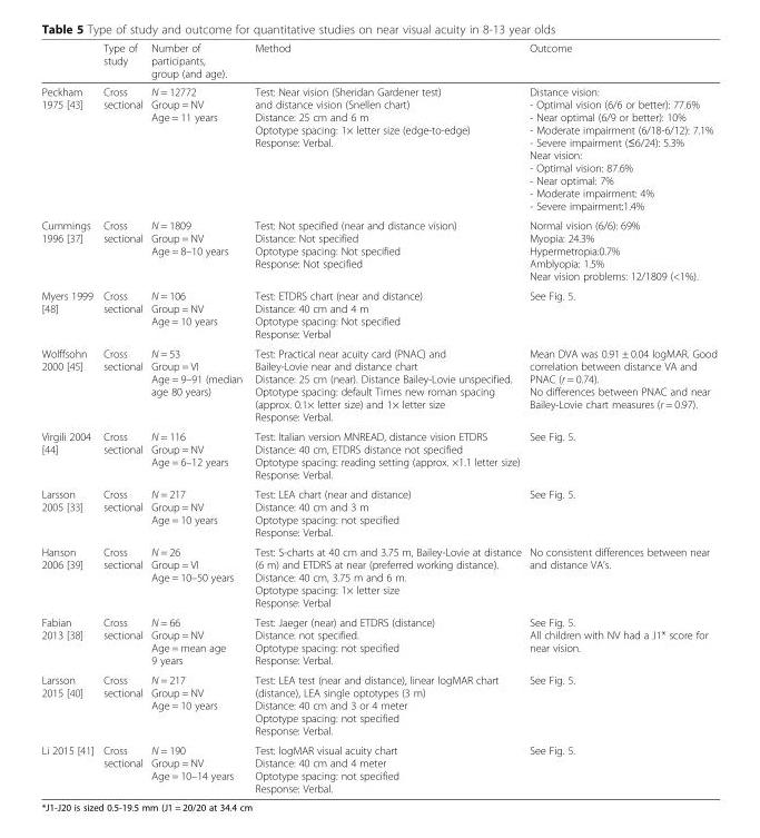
<table><thead><tr><td></td><td>Type of study</td><td>Number of participants, group (and age).</td><td>Method</td><td>Outcome</td></tr></thead><tbody><tr><td>Peckham 1975 [43]</td><td>Cross sectional</td><td>N = 12772 Group = NV Age = 11 years</td><td>Test: Near vision (Sheridan Gardener test) and distance vision (Snellen chart) Distance: 25 cm and 6 m Optotype spacing: 1× letter size (edge-to-edge) Response: Verbal.</td><td>Distance vision: - Optimal vision (6/6 or better): 77.6% - Near optimal (6/9 or better): 10% - Moderate impairment (6/18-6/12): 7.1% - Severe impairment (≤6/24): 5.3% Near vision: - Optimal vision: 87.6% - Near optimal: 7% - Moderate impairment: 4% - Severe impairment:1.4%</td></tr><tr><td>Cummings 1996 [37]</td><td>Cross sectional</td><td>N = 1809 Group = NV Age = 8–10 years</td><td>Test: Not specified (near and distance vision) Distance: Not specified Optotype spacing: Not specified Response: Not specified</td><td>Normal vision (6/6): 69% Myopia: 24.3% Hypermetropia:0.7% Amblyopia: 1.5% Near vision problems: 12/1809 (&lt;1%).</td></tr><tr><td>Myers 1999 [48]</td><td>Cross sectional</td><td>N = 106 Group = NV Age = 10 years</td><td>Test: ETDRS chart (near and distance) Distance: 40 cm and 4 m Optotype spacing: Not specified Response: Verbal</td><td>See Fig. 5.</td></tr><tr><td>Wolffsohn 2000 [45]</td><td>Cross sectional</td><td>N = 53 Group = VI Age = 9–91 (median age 80 years)</td><td>Test: Practical near acuity card (PNAC) and Bailey-Lovie near and distance chart Distance: 25 cm (near). Distance Bailey-Lovie unspecified. Optotype spacing: default Times new roman spacing (approx. 0.1× letter size) and 1× letter size Response: Verbal.</td><td>Mean DVA was 0.91 ± 0.04 logMAR. Good correlation between distance VA and PNAC (r = 0.74). No differences between PNAC and near Bailey-Lovie chart measures (r = 0.97).</td></tr><tr><td>Virgili 2004 [44]</td><td>Cross sectional</td><td>N = 116 Group = NV Age = 6–12 years</td><td>Test: Italian version MNREAD, distance vision ETDRS Distance: 40 cm, ETDRS distance not specified Optotype spacing: reading setting (approx. ×1.1 letter size) Response: Verbal.</td><td>See Fig. 5.</td></tr><tr><td>Larsson 2005 [33]</td><td>Cross sectional</td><td>N = 217 Group = NV Age = 10 years</td><td>Test: LEA chart (near and distance) Distance: 40 cm and 3 m Optotype spacing: not specified Response: Verbal.</td><td>See Fig. 5.</td></tr><tr><td>Hanson 2006 [39]</td><td>Cross sectional</td><td>N = 26 Group = VI Age = 10–50 years</td><td>Test: S-charts at 40 cm and 3.75 m, Bailey-Lovie at distance (6 m) and ETDRS at near (preferred working distance). Distance: 40 cm, 3.75 m and 6 m. Optotype spacing: 1× letter size Response: Verbal</td><td>No consistent differences between near and distance VA’s.</td></tr><tr><td>Fabian 2013 [38]</td><td>Cross sectional</td><td>N = 66 Group = NV Age = mean age 9 years</td><td>Test: Jaeger (near) and ETDRS (distance) Distance: not specified. Optotype spacing: not specified Response: Verbal.</td><td>See Fig. 5. All children with NV had a J1* score for near vision.</td></tr><tr><td>Larsson 2015 [40]</td><td>Cross sectional</td><td>N = 217 Group = NV Age = 10 years</td><td>Test: LEA test (near and distance), linear logMAR chart (distance), LEA single optotypes (3 m) Distance: 40 cm and 3 or 4 meter Optotype spacing: not specified Response: Verbal.</td><td>See Fig. 5.</td></tr><tr><td>Li 2015 [41]</td><td>Cross sectional</td><td>N = 190 Group = NV Age = 10–14 years</td><td>Test: logMAR visual acuity chart Distance: 40 cm and 4 meter Optotype spacing: not specified Response: Verbal.</td><td>See Fig. 5.</td></tr></tbody></table>